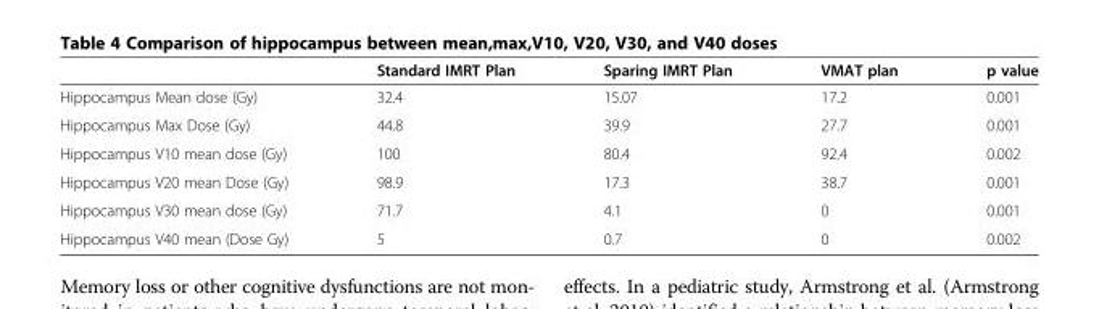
<table><thead><tr><td></td><td>Standard IMRT Plan</td><td>Sparing IMRT Plan</td><td>VMAT plan</td><td>p value</td></tr></thead><tbody><tr><td>Hippocampus Mean dose (Gy)</td><td>32.4</td><td>15.07</td><td>17.2</td><td>0.001</td></tr><tr><td>Hippocampus Max Dose (Gy)</td><td>44.8</td><td>39.9</td><td>27.7</td><td>0.001</td></tr><tr><td>Hippocampus V10 mean dose (Gy)</td><td>100</td><td>80.4</td><td>92.4</td><td>0.002</td></tr><tr><td>Hippocampus V20 mean Dose (Gy)</td><td>98.9</td><td>17.3</td><td>38.7</td><td>0.001</td></tr><tr><td>Hippocampus V30 mean dose (Gy)</td><td>71.7</td><td>4.1</td><td>0</td><td>0.001</td></tr><tr><td>Hippocampus V40 mean (Dose Gy)</td><td>5</td><td>0.7</td><td>0</td><td>0.002</td></tr></tbody></table>